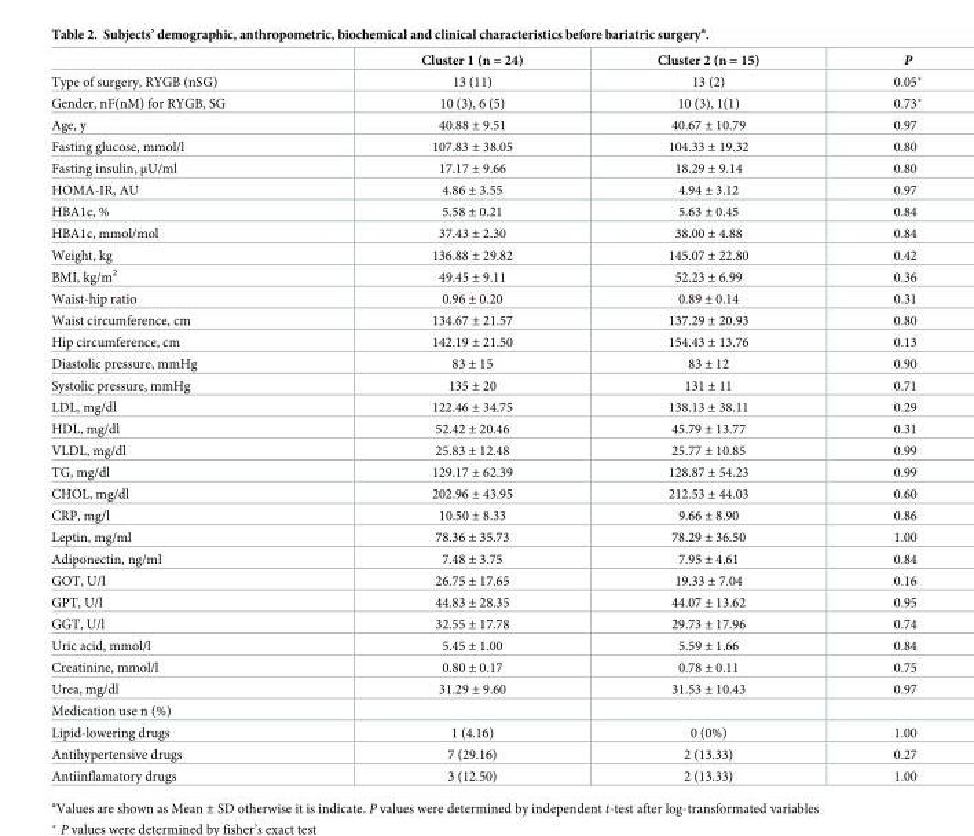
<table><thead><tr><td></td><td>Cluster 1 (n = 24)</td><td>Cluster 2 (n = 15)</td><td>P</td></tr></thead><tbody><tr><td>Type of surgery, RYGB (nSG)</td><td>13 (11)</td><td>13 (2)</td><td>0.05*</td></tr><tr><td>Gender, nF(nM) for RYGB, SG</td><td>10 (3), 6 (5)</td><td>10 (3), 1(1)</td><td>0.73*</td></tr><tr><td>Age, y</td><td>40.88 ± 9.51</td><td>40.67 ± 10.79</td><td>0.97</td></tr><tr><td>Fasting glucose, mmol/l</td><td>107.83 ± 38.05</td><td>104.33 ± 19.32</td><td>0.80</td></tr><tr><td>Fasting insulin, μU/ml</td><td>17.17 ± 9.66</td><td>18.29 ± 9.14</td><td>0.80</td></tr><tr><td>HOMA-IR, AU</td><td>4.86 ± 3.55</td><td>4.94 ± 3.12</td><td>0.97</td></tr><tr><td>HBA1c, %</td><td>5.58 ± 0.21</td><td>5.63 ± 0.45</td><td>0.84</td></tr><tr><td>HBA1c, mmol/mol</td><td>37.43 ± 2.30</td><td>38.00 ± 4.88</td><td>0.84</td></tr><tr><td>Weight, kg</td><td>136.88 ± 29.82</td><td>145.07 ± 22.80</td><td>0.42</td></tr><tr><td>BMI, kg/m<sup>2</sup></td><td>49.45 ± 9.11</td><td>52.23 ± 6.99</td><td>0.36</td></tr><tr><td>Waist-hip ratio</td><td>0.96 ± 0.20</td><td>0.89 ± 0.14</td><td>0.31</td></tr><tr><td>Waist circumference, cm</td><td>134.67 ± 21.57</td><td>137.29 ± 20.93</td><td>0.80</td></tr><tr><td>Hip circumference, cm</td><td>142.19 ± 21.50</td><td>154.43 ± 13.76</td><td>0.13</td></tr><tr><td>Diastolic pressure, mmHg</td><td>83 ± 15</td><td>83 ± 12</td><td>0.90</td></tr><tr><td>Systolic pressure, mmHg</td><td>135 ± 20</td><td>131 ± 11</td><td>0.71</td></tr><tr><td>LDL, mg/dl</td><td>122.46 ± 34.75</td><td>138.13 ± 38.11</td><td>0.29</td></tr><tr><td>HDL, mg/dl</td><td>52.42 ± 20.46</td><td>45.79 ± 13.77</td><td>0.31</td></tr><tr><td>VLDL, mg/dl</td><td>25.83 ± 12.48</td><td>25.77 ± 10.85</td><td>0.99</td></tr><tr><td>TG, mg/dl</td><td>129.17 ± 62.39</td><td>128.87 ± 54.23</td><td>0.99</td></tr><tr><td>CHOL, mg/dl</td><td>202.96 ± 43.95</td><td>212.53 ± 44.03</td><td>0.60</td></tr><tr><td>CRP, mg/l</td><td>10.50 ± 8.33</td><td>9.66 ± 8.90</td><td>0.86</td></tr><tr><td>Leptin, mg/ml</td><td>78.36 ± 35.73</td><td>78.29 ± 36.50</td><td>1.00</td></tr><tr><td>Adiponectin, ng/ml</td><td>7.48 ± 3.75</td><td>7.95 ± 4.61</td><td>0.84</td></tr><tr><td>GOT, U/l</td><td>26.75 ± 17.65</td><td>19.33 ± 7.04</td><td>0.16</td></tr><tr><td>GPT, U/l</td><td>44.83 ± 28.35</td><td>44.07 ± 13.62</td><td>0.95</td></tr><tr><td>GGT, U/l</td><td>32.55 ± 17.78</td><td>29.73 ± 17.96</td><td>0.74</td></tr><tr><td>Uric acid, mmol/l</td><td>5.45 ± 1.00</td><td>5.59 ± 1.66</td><td>0.84</td></tr><tr><td>Creatinine, mmol/l</td><td>0.80 ± 0.17</td><td>0.78 ± 0.11</td><td>0.75</td></tr><tr><td>Urea, mg/dl</td><td>31.29 ± 9.60</td><td>31.53 ± 10.43</td><td>0.97</td></tr><tr><td colspan="4">Medication use n (%)</td></tr><tr><td>Lipid-lowering drugs</td><td>1 (4.16)</td><td>0 (0%)</td><td>1.00</td></tr><tr><td>Antihypertensive drugs</td><td>7 (29.16)</td><td>2 (13.33)</td><td>0.27</td></tr><tr><td>Antiinflamatory drugs</td><td>3 (12.50)</td><td>2 (13.33)</td><td>1.00</td></tr></tbody></table>